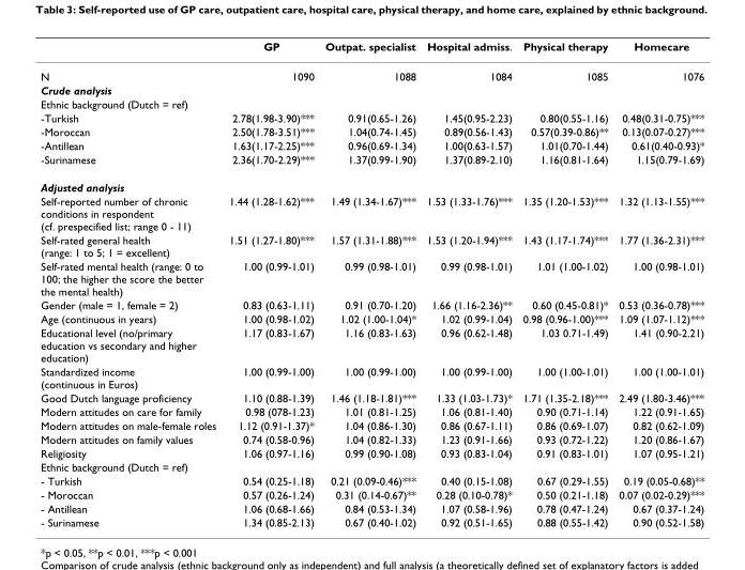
<table><thead><tr><td></td><td>GP</td><td>Outpat. specialist</td><td>Hospital admiss.</td><td>Physical therapy</td><td>Homecare</td></tr></thead><tbody><tr><td>N</td><td>1090</td><td>1088</td><td>1084</td><td>1085</td><td>1076</td></tr><tr><td colspan="6">Crude analysis</td></tr><tr><td colspan="6">Ethnic background (Dutch = ref)</td></tr><tr><td>-Turkish</td><td>2.78(1.98-3.90)***</td><td>0.91(0.65-1.26)</td><td>1.45(0.95-2.23)</td><td>0.80(0.55-1.16)</td><td>0.48(0.31-0.75)***</td></tr><tr><td>-Moroccan</td><td>2.50(1.78-3.51)***</td><td>1.04(0.74-1.45)</td><td>0.89(0.56-1.43)</td><td>0.57(0.39-0.86)**</td><td>0.13(0.07-0.27)***</td></tr><tr><td>-Antillean</td><td>1.63(1.17-2.25)***</td><td>0.96(0.69-1.34)</td><td>1.00(0.63-1.57)</td><td>1.01(0.70-1.44)</td><td>0.61(0.40-0.93)*</td></tr><tr><td>-Surinamese</td><td>2.36(1.70-2.29)***</td><td>1.37(0.99-1.90)</td><td>1.37(0.89-2.10)</td><td>1.16(0.81-1.64)</td><td>1.15(0.79-1.69)</td></tr><tr><td colspan="6">Adjusted analysis</td></tr><tr><td>Self-reported number of chronic conditions in respondent (cf. prespecified list; range 0 - 11)</td><td>1.44 (1.28-1.62)***</td><td>1.49 (1.34-1.67)***</td><td>1.53 (1.33-1.76)***</td><td>1.35 (1.20-1.53)***</td><td>1.32 (1.13-1.55)***</td></tr><tr><td>Self-rated general health (range: 1 to 5; 1 = excellent)</td><td>1.51 (1.27-1.80)***</td><td>1.57 (1.31-1.88)***</td><td>1.53 (1.20-1.94)***</td><td>1.43 (1.17-1.74)***</td><td>1.77 (1.36-2.31)***</td></tr><tr><td>Self-rated mental health (range: 0 to 100; the higher the score the better the mental health)</td><td>1.00 (0.99-1.01)</td><td>0.99 (0.98-1.01)</td><td>0.99 (0.98-1.01)</td><td>1.01 (1.00-1.02)</td><td>1.00 (0.98-1.01)</td></tr><tr><td>Gender (male = 1, female = 2)</td><td>0.83 (0.63-1.11)</td><td>0.91 (0.70-1.20)</td><td>1.66 (1.16-2.36)**</td><td>0.60 (0.45-0.81)*</td><td>0.53 (0.36-0.78)***</td></tr><tr><td>Age (continuous in years)</td><td>1.00 (0.98-1.02)</td><td>1.02 (1.00-1.04)*</td><td>1.02 (0.99-1.04)</td><td>0.98 (0.96-1.00)***</td><td>1.09 (1.07-1.12)***</td></tr><tr><td>Educational level (no/primary education vs secondary and higher education)</td><td>1.17 (0.83-1.67)</td><td>1.16 (0.83-1.63)</td><td>0.96 (0.62-1.48)</td><td>1.03 0.71-1.49)</td><td>1.41 (0.90-2.21)</td></tr><tr><td>Standardized income (continuous in Euros)</td><td>1.00 (0.99-1.00)</td><td>1.00 (0.99-1.00)</td><td>1.00 (0.99-1.00)</td><td>1.00 (1.00-1.01)</td><td>1.00 (1.00-1.01)</td></tr><tr><td>Good Dutch language proficiency</td><td>1.10 (0.88-1.39)</td><td>1.46 (1.18-1.81)***</td><td>1.33 (1.03-1.73)*</td><td>1.71 (1.35-2.18)***</td><td>2.49 (1.80-3.46)***</td></tr><tr><td>Modern attitudes on care for family</td><td>0.98 (078-1.23)</td><td>1.01 (0.81-1.25)</td><td>1.06 (0.81-1.40)</td><td>0.90 (0.71-1.14)</td><td>1.22 (0.91-1.65)</td></tr><tr><td>Modern attitudes on male-female roles</td><td>1.12 (0.91-1.37)*</td><td>1.04 (0.86-1.30)</td><td>0.86 (0.67-1.11)</td><td>0.86 (0.69-1.07)</td><td>0.82 (0.62-1.09)</td></tr><tr><td>Modern attitudes on family values</td><td>0.74 (0.58-0.96)</td><td>1.04 (0.82-1.33)</td><td>1.23 (0.91-1.66)</td><td>0.93 (0.72-1.22)</td><td>1.20 (0.86-1.67)</td></tr><tr><td>Religiosity</td><td>1.06 (0.97-1.16)</td><td>0.99 (0.90-1.08)</td><td>0.93 (0.83-1.04)</td><td>0.91 (0.83-1.01)</td><td>1.07 (0.95-1.21)</td></tr><tr><td colspan="6">Ethnic background (Dutch = ref)</td></tr><tr><td>- Turkish</td><td>0.54 (0.25-1.18)</td><td>0.21 (0.09-0.46)***</td><td>0.40 (0.15-1.08)</td><td>0.67 (0.29-1.55)</td><td>0.19 (0.05-0.68)**</td></tr><tr><td>- Moroccan</td><td>0.57 (0.26-1.24)</td><td>0.31 (0.14-0.67)**</td><td>0.28 (0.10-0.78)*</td><td>0.50 (0.21-1.18)</td><td>0.07 (0.02-0.29)***</td></tr><tr><td>- Antillean</td><td>1.06 (0.68-1.66)</td><td>0.84 (0.53-1.34)</td><td>1.07 (0.58-1.96)</td><td>0.78 (0.47-1.24)</td><td>0.67 (0.37-1.24)</td></tr><tr><td>- Surinamese</td><td>1.34 (0.85-2.13)</td><td>0.67 (0.40-1.02)</td><td>0.92 (0.51-1.65)</td><td>0.88 (0.55-1.42)</td><td>0.90 (0.52-1.58)</td></tr></tbody></table>